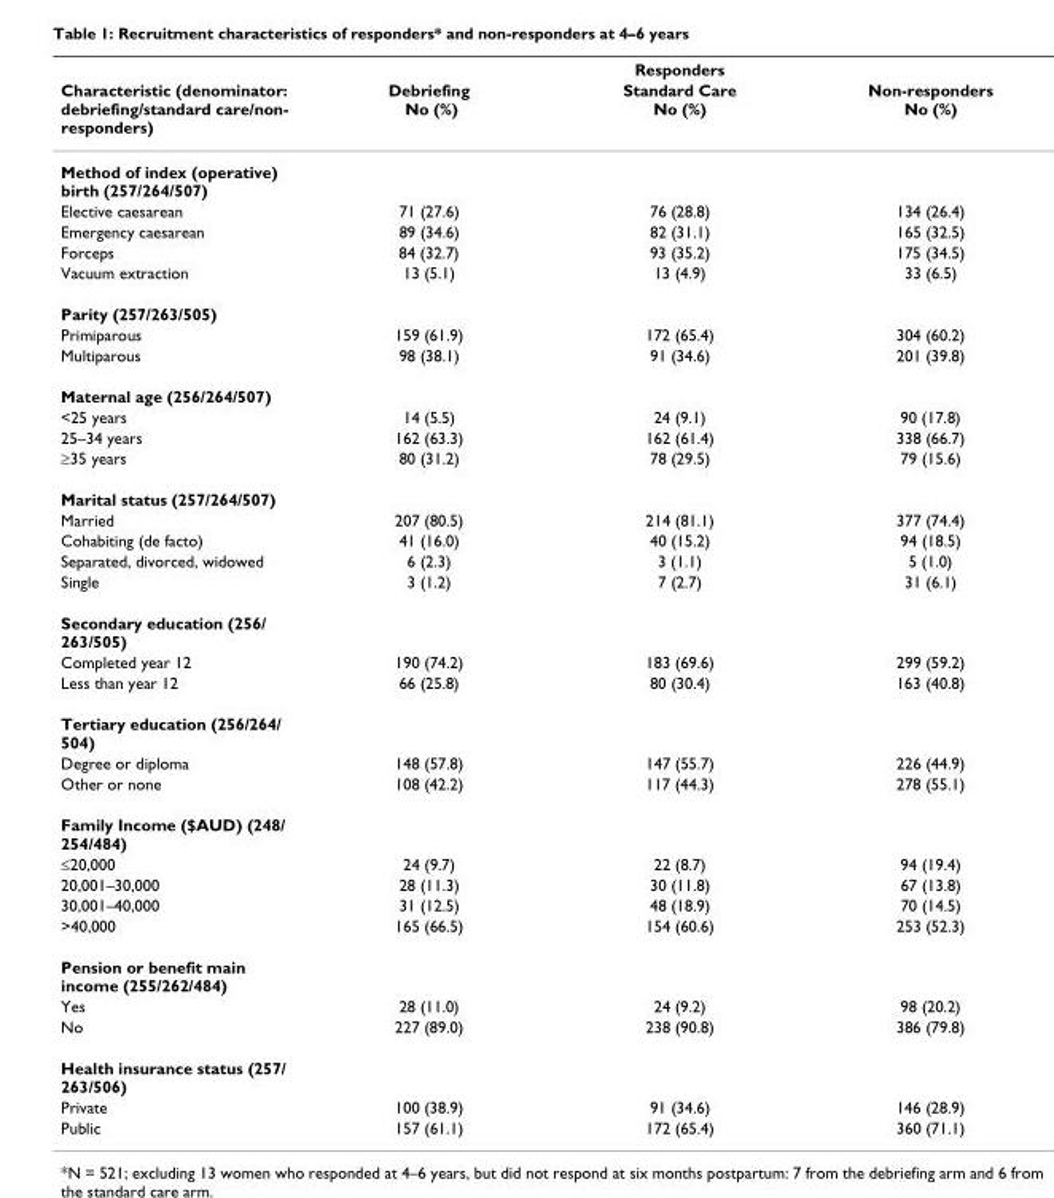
<table><thead><tr><td rowspan="2">Characteristic (denominator: debriefing/standard care/non- responders)</td><td colspan="3">Responders</td></tr><tr><td>Debriefing No (%)</td><td>Standard Care No (%)</td><td>Non-responders No (%)</td></tr></thead><tbody><tr><td colspan="4">Method of index (operative) birth (257/264/507)</td></tr><tr><td>Elective caesarean</td><td>71 (27.6)</td><td>76 (28.8)</td><td>134 (26.4)</td></tr><tr><td>Emergency caesarean</td><td>89 (34.6)</td><td>82 (31.1)</td><td>165 (32.5)</td></tr><tr><td>Forceps</td><td>84 (32.7)</td><td>93 (35.2)</td><td>175 (34.5)</td></tr><tr><td>Vacuum extraction</td><td>13 (5.1)</td><td>13 (4.9)</td><td>33 (6.5)</td></tr><tr><td colspan="4">Parity (257/263/505)</td></tr><tr><td>Primiparous</td><td>159 (61.9)</td><td>172 (65.4)</td><td>304 (60.2)</td></tr><tr><td>Multiparous</td><td>98 (38.1)</td><td>91 (34.6)</td><td>201 (39.8)</td></tr><tr><td colspan="4">Maternal age (256/264/507)</td></tr><tr><td>&lt;25 years</td><td>14 (5.5)</td><td>24 (9.1)</td><td>90 (17.8)</td></tr><tr><td>25–34 years</td><td>162 (63.3)</td><td>162 (61.4)</td><td>338 (66.7)</td></tr><tr><td>≥35 years</td><td>80 (31.2)</td><td>78 (29.5)</td><td>79 (15.6)</td></tr><tr><td colspan="4">Marital status (257/264/507)</td></tr><tr><td>Married</td><td>207 (80.5)</td><td>214 (81.1)</td><td>377 (74.4)</td></tr><tr><td>Cohabiting (de facto)</td><td>41 (16.0)</td><td>40 (15.2)</td><td>94 (18.5)</td></tr><tr><td>Separated, divorced, widowed</td><td>6 (2.3)</td><td>3 (1.1)</td><td>5 (1.0)</td></tr><tr><td>Single</td><td>3 (1.2)</td><td>7 (2.7)</td><td>31 (6.1)</td></tr><tr><td colspan="4">Secondary education (256/ 263/505)</td></tr><tr><td>Completed year 12</td><td>190 (74.2)</td><td>183 (69.6)</td><td>299 (59.2)</td></tr><tr><td>Less than year 12</td><td>66 (25.8)</td><td>80 (30.4)</td><td>163 (40.8)</td></tr><tr><td colspan="4">Tertiary education (256/264/ 504)</td></tr><tr><td>Degree or diploma</td><td>148 (57.8)</td><td>147 (55.7)</td><td>226 (44.9)</td></tr><tr><td>Other or none</td><td>108 (42.2)</td><td>117 (44.3)</td><td>278 (55.1)</td></tr><tr><td colspan="4">Family Income ($AUD) (248/ 254/484)</td></tr><tr><td>≤20,000</td><td>24 (9.7)</td><td>22 (8.7)</td><td>94 (19.4)</td></tr><tr><td>20,001–30,000</td><td>28 (11.3)</td><td>30 (11.8)</td><td>67 (13.8)</td></tr><tr><td>30,001–40,000</td><td>31 (12.5)</td><td>48 (18.9)</td><td>70 (14.5)</td></tr><tr><td>&gt;40,000</td><td>165 (66.5)</td><td>154 (60.6)</td><td>253 (52.3)</td></tr><tr><td colspan="4">Pension or benefit main income (255/262/484)</td></tr><tr><td>Yes</td><td>28 (11.0)</td><td>24 (9.2)</td><td>98 (20.2)</td></tr><tr><td>No</td><td>227 (89.0)</td><td>238 (90.8)</td><td>386 (79.8)</td></tr><tr><td colspan="4">Health insurance status (257/ 263/506)</td></tr><tr><td>Private</td><td>100 (38.9)</td><td>91 (34.6)</td><td>146 (28.9)</td></tr><tr><td>Public</td><td>157 (61.1)</td><td>172 (65.4)</td><td>360 (71.1)</td></tr></tbody></table>